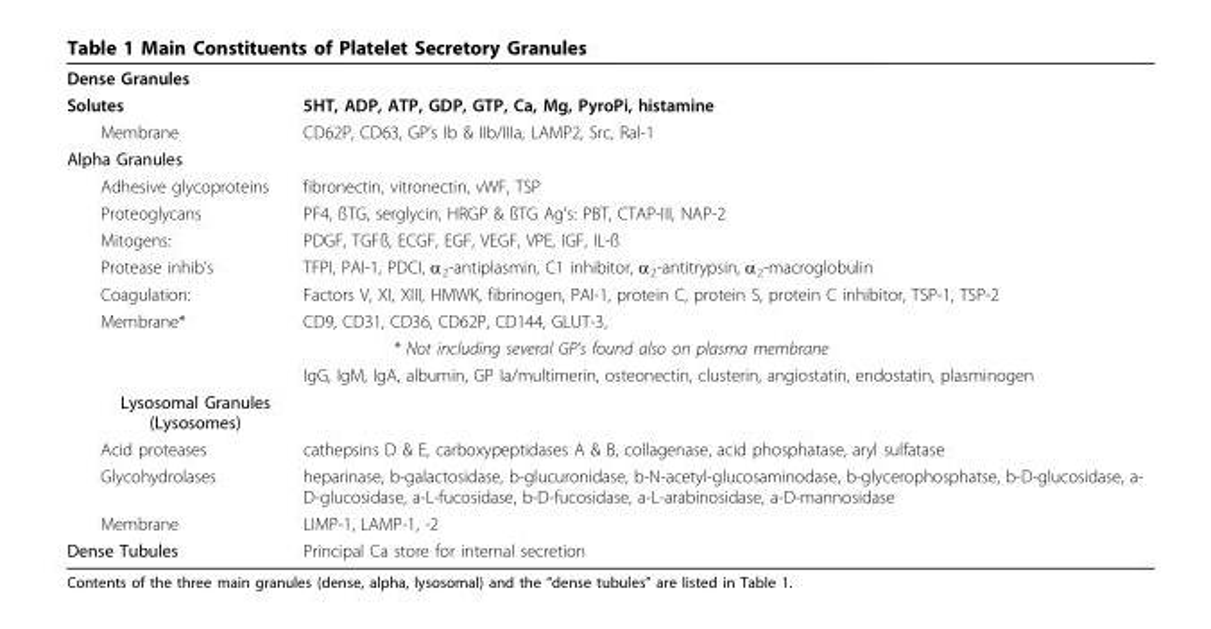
<table><tbody><tr><td colspan="2">Dense Granules</td></tr><tr><td>Solutes</td><td>5HT, ADP, ATP, GDP, GTP, Ca, Mg, PyroPi, histamine</td></tr><tr><td>Membrane</td><td>CD62P, CD63, GP’s Ib &amp; IIb/IIIa, LAMP2, Src, Ral-1</td></tr><tr><td colspan="2">Alpha Granules</td></tr><tr><td>Adhesive glycoproteins</td><td>fibronectin, vitronectin, vWF, TSP</td></tr><tr><td>Proteoglycans</td><td>PF4, ßTG, serglycin, HRGP &amp; ßTG Ag’s: PBT, CTAP-III, NAP-2</td></tr><tr><td>Mitogens:</td><td>PDGF, TGFß, ECGF, EGF, VEGF, VPE, IGF, IL-ß</td></tr><tr><td>Protease inhib’s</td><td>TFPI, PAI-1, PDCI, α<sub>2</sub>-antiplasmin, C1 inhibitor, α<sub>2</sub>-antitrypsin, α<sub>2</sub>-macroglobulin</td></tr><tr><td>Coagulation:</td><td>Factors V, XI, XIII, HMWK, fibrinogen, PAI-1, protein C, protein S, protein C inhibitor, TSP-1, TSP-2</td></tr><tr><td>Membrane*</td><td>CD9, CD31, CD36, CD62P, CD144, GLUT-3,</td></tr><tr><td colspan="2">* Not including several GP’s found also on plasma membrane</td></tr><tr><td></td><td>IgG, IgM, IgA, albumin, GP Ia/multimerin, osteonectin, clusterin, angiostatin, endostatin, plasminogen</td></tr><tr><td colspan="2">Lysosomal Granules (Lysosomes)</td></tr><tr><td>Acid proteases</td><td>cathepsins D &amp; E, carboxypeptidases A &amp; B, collagenase, acid phosphatase, aryl sulfatase</td></tr><tr><td>Glycohydrolases</td><td>heparinase, b-galactosidase, b-glucuronidase, b-N-acetyl-glucosaminodase, b-glycerophosphatse, b-D-glucosidase, a- D-glucosidase, a-L-fucosidase, b-D-fucosidase, a-L-arabinosidase, a-D-mannosidase</td></tr><tr><td>Membrane</td><td>LIMP-1, LAMP-1, -2</td></tr><tr><td>Dense Tubules</td><td>Principal Ca store for internal secretion</td></tr></tbody></table>